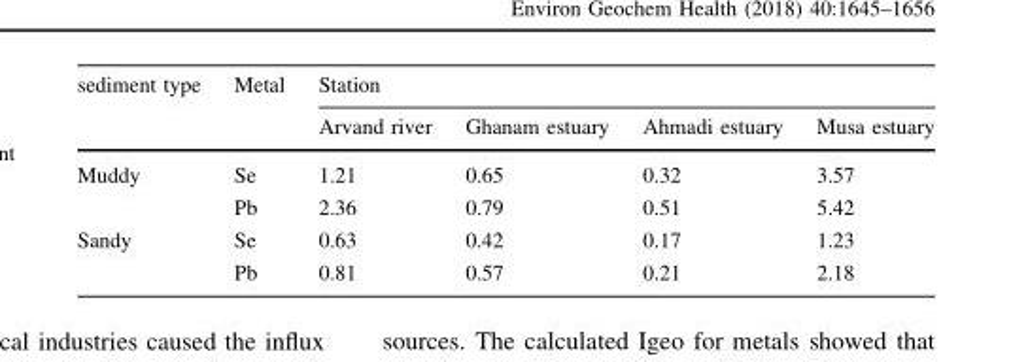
<table><thead><tr><td rowspan="2">sediment type</td><td rowspan="2">Metal</td><td colspan="4">Station</td></tr><tr><td>Arvand river</td><td>Ghanam estuary</td><td>Ahmadi estuary</td><td>Musa estuary</td></tr></thead><tbody><tr><td rowspan="2">Muddy</td><td>Se</td><td>1.21</td><td>0.65</td><td>0.32</td><td>3.57</td></tr><tr><td>Pb</td><td>2.36</td><td>0.79</td><td>0.51</td><td>5.42</td></tr><tr><td rowspan="2">Sandy</td><td>Se</td><td>0.63</td><td>0.42</td><td>0.17</td><td>1.23</td></tr><tr><td>Pb</td><td>0.81</td><td>0.57</td><td>0.21</td><td>2.18</td></tr></tbody></table>